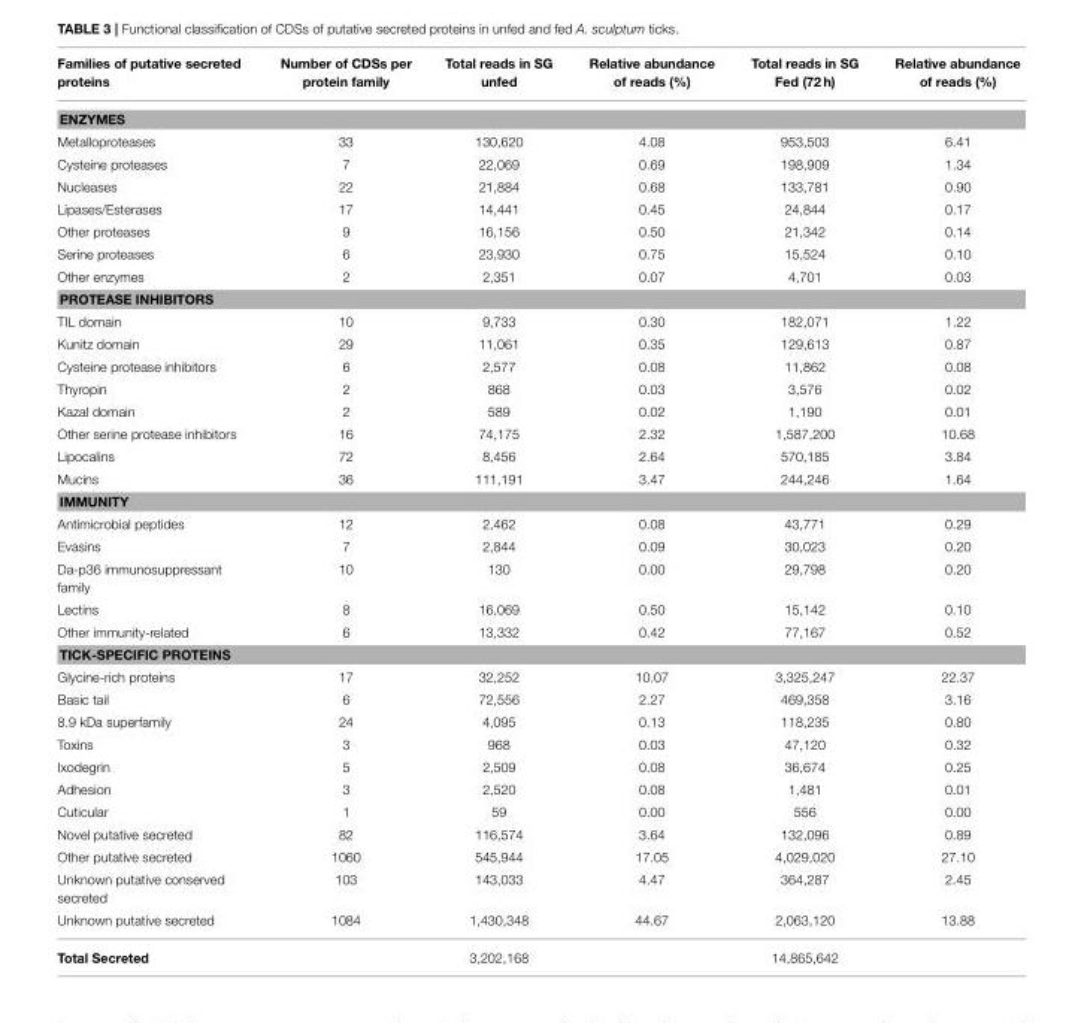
<table><thead><tr><td>Families of putative secreted proteins</td><td>Number of CDSs per protein family</td><td>Total reads in SG unfed</td><td>Relative abundance of reads (%)</td><td>Total reads in SG Fed (72 h)</td><td>Relative abundance of reads (%)</td></tr></thead><tbody><tr><td colspan="6">ENZYMES</td></tr><tr><td>Metalloproteases</td><td>33</td><td>130,620</td><td>4.08</td><td>953,503</td><td>6.41</td></tr><tr><td>Cysteine proteases</td><td>7</td><td>22,069</td><td>0.69</td><td>198,909</td><td>1.34</td></tr><tr><td>Nucleases</td><td>22</td><td>21,884</td><td>0.68</td><td>133,781</td><td>0.90</td></tr><tr><td>Lipases/Esterases</td><td>17</td><td>14,441</td><td>0.45</td><td>24,844</td><td>0.17</td></tr><tr><td>Other proteases</td><td>9</td><td>16,156</td><td>0.50</td><td>21,342</td><td>0.14</td></tr><tr><td>Serine proteases</td><td>6</td><td>23,930</td><td>0.75</td><td>15,524</td><td>0.10</td></tr><tr><td>Other enzymes</td><td>2</td><td>2,351</td><td>0.07</td><td>4,701</td><td>0.03</td></tr><tr><td colspan="6">PROTEASE INHIBITORS</td></tr><tr><td>TIL domain</td><td>10</td><td>9,733</td><td>0.30</td><td>182,071</td><td>1.22</td></tr><tr><td>Kunitz domain</td><td>29</td><td>11,061</td><td>0.35</td><td>129,613</td><td>0.87</td></tr><tr><td>Cysteine protease inhibitors</td><td>6</td><td>2,577</td><td>0.08</td><td>11,862</td><td>0.08</td></tr><tr><td>Thyropin</td><td>2</td><td>868</td><td>0.03</td><td>3,576</td><td>0.02</td></tr><tr><td>Kazal domain</td><td>2</td><td>589</td><td>0.02</td><td>1,190</td><td>0.01</td></tr><tr><td>Other serine protease inhibitors</td><td>16</td><td>74,175</td><td>2.32</td><td>1,587,200</td><td>10.68</td></tr><tr><td>Lipocalins</td><td>72</td><td>8,456</td><td>2.64</td><td>570,185</td><td>3.84</td></tr><tr><td>Mucins</td><td>36</td><td>111,191</td><td>3.47</td><td>244,246</td><td>1.64</td></tr><tr><td colspan="6">IMMUNITY</td></tr><tr><td>Antimicrobial peptides</td><td>12</td><td>2,462</td><td>0.08</td><td>43,771</td><td>0.29</td></tr><tr><td>Evasins</td><td>7</td><td>2,844</td><td>0.09</td><td>30,023</td><td>0.20</td></tr><tr><td>Da-p36 immunosuppressant family</td><td>10</td><td>130</td><td>0.00</td><td>29,798</td><td>0.20</td></tr><tr><td>Lectins</td><td>8</td><td>16,069</td><td>0.50</td><td>15,142</td><td>0.10</td></tr><tr><td>Other immunity-related</td><td>6</td><td>13,332</td><td>0.42</td><td>77,167</td><td>0.52</td></tr><tr><td colspan="6">TICK-SPECIFIC PROTEINS</td></tr><tr><td>Glycine-rich proteins</td><td>17</td><td>32,252</td><td>10.07</td><td>3,325,247</td><td>22.37</td></tr><tr><td>Basic tail</td><td>6</td><td>72,556</td><td>2.27</td><td>469,358</td><td>3.16</td></tr><tr><td>8.9 kDa superfamily</td><td>24</td><td>4,095</td><td>0.13</td><td>118,235</td><td>0.80</td></tr><tr><td>Toxins</td><td>3</td><td>968</td><td>0.03</td><td>47,120</td><td>0.32</td></tr><tr><td>Ixodegrin</td><td>5</td><td>2,509</td><td>0.08</td><td>36,674</td><td>0.25</td></tr><tr><td>Adhesion</td><td>3</td><td>2,520</td><td>0.08</td><td>1,481</td><td>0.01</td></tr><tr><td>Cuticular</td><td>1</td><td>59</td><td>0.00</td><td>556</td><td>0.00</td></tr><tr><td>Novel putative secreted</td><td>82</td><td>116,574</td><td>3.64</td><td>132,096</td><td>0.89</td></tr><tr><td>Other putative secreted</td><td>1060</td><td>545,944</td><td>17.05</td><td>4,029,020</td><td>27.10</td></tr><tr><td>Unknown putative conserved secreted</td><td>103</td><td>143,033</td><td>4.47</td><td>364,287</td><td>2.45</td></tr><tr><td>Unknown putative secreted</td><td>1084</td><td>1,430,348</td><td>44.67</td><td>2,063,120</td><td>13.88</td></tr><tr><td>Total Secreted</td><td></td><td>3,202,168</td><td></td><td>14,865,642</td><td></td></tr></tbody></table>